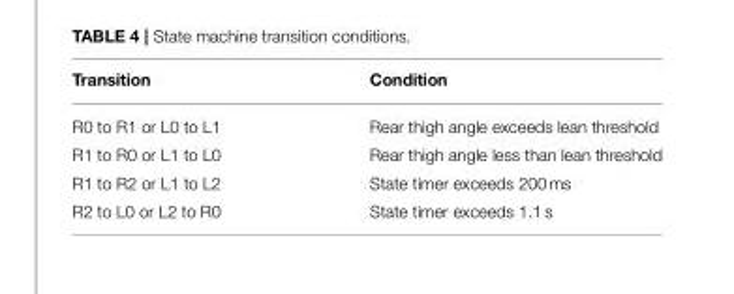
<table><thead><tr><td>Transition</td><td>Condition</td></tr></thead><tbody><tr><td>R0 to R1 or L0 to L1</td><td>Rear thigh angle exceeds lean threshold</td></tr><tr><td>R1 to R0 or L1 to L0</td><td>Rear thigh angle less than lean threshold</td></tr><tr><td>R1 to R2 or L1 to L2</td><td>State timer exceeds 200 ms</td></tr><tr><td>R2 to L0 or L2 to R0</td><td>State timer exceeds 1.1 s</td></tr></tbody></table>